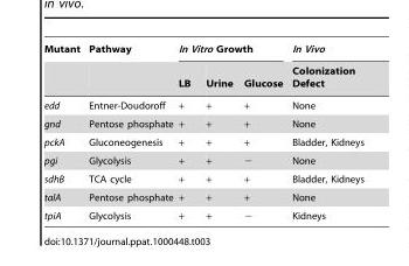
<table><thead><tr><td rowspan="2">Mutant</td><td rowspan="2">Pathway</td><td colspan="3">In Vitro Growth</td><td rowspan="2">In Vivo Colonization Defect</td></tr><tr><td>LB</td><td>Urine</td><td>Glucose</td></tr></thead><tbody><tr><td>edd</td><td>Entner-Doudoroff</td><td>+</td><td>+</td><td>+</td><td>None</td></tr><tr><td>gnd</td><td>Pentose phosphate</td><td>+</td><td>+</td><td>+</td><td>None</td></tr><tr><td>pckA</td><td>Gluconeogenesis</td><td>+</td><td>+</td><td>+</td><td>Bladder, Kidneys</td></tr><tr><td>pgi</td><td>Glycolysis</td><td>+</td><td>+</td><td>−</td><td>None</td></tr><tr><td>sdhB</td><td>TCA cycle</td><td>+</td><td>+</td><td>+</td><td>Bladder, Kidneys</td></tr><tr><td>talA</td><td>Pentose phosphate</td><td>+</td><td>+</td><td>+</td><td>None</td></tr><tr><td>tpiA</td><td>Glycolysis</td><td>+</td><td>+</td><td>−</td><td>Kidneys</td></tr></tbody></table>